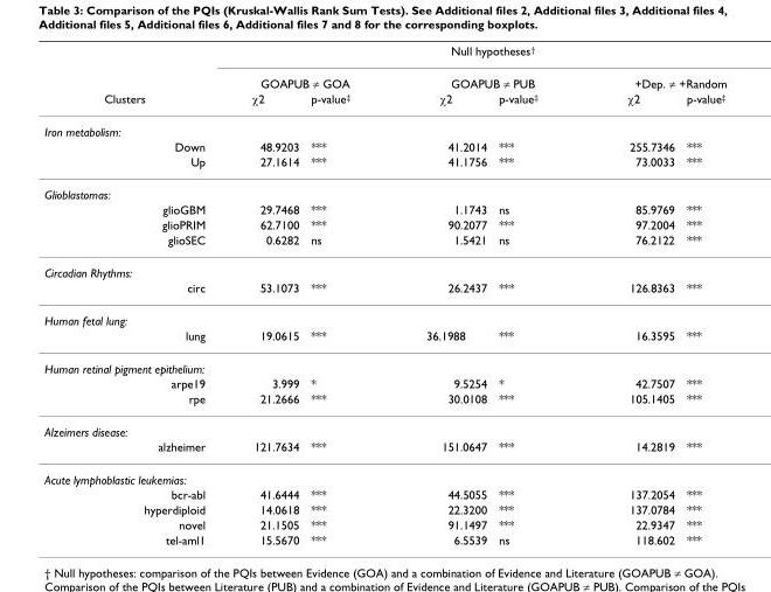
<table><thead><tr><td rowspan="3">Clusters</td><td colspan="6">Null hypotheses†</td></tr><tr><td colspan="2">GOAPUB ≠ GOA</td><td colspan="2">GOAPUB ≠ PUB</td><td colspan="2">+Dep. ≠ +Random</td></tr><tr><td>χ2</td><td>p-value‡</td><td>χ2</td><td>p-value‡</td><td>χ2</td><td>p-value‡</td></tr></thead><tbody><tr><td colspan="7">Iron metabolism:</td></tr><tr><td>Down</td><td>48.9203</td><td>***</td><td>41.2014</td><td>***</td><td>255.7346</td><td>***</td></tr><tr><td>Up</td><td>27.1614</td><td>***</td><td>41.1756</td><td>***</td><td>73.0033</td><td>***</td></tr><tr><td colspan="7">Glioblastomas:</td></tr><tr><td>glioGBM</td><td>29.7468</td><td>***</td><td>1.1743</td><td>ns</td><td>85.9769</td><td>***</td></tr><tr><td>glioPRIM</td><td>62.7100</td><td>***</td><td>90.2077</td><td>***</td><td>97.2004</td><td>***</td></tr><tr><td>glioSEC</td><td>0.6282</td><td>ns</td><td>1.5421</td><td>ns</td><td>76.2122</td><td>***</td></tr><tr><td colspan="7">Circadian Rhythms:</td></tr><tr><td>circ</td><td>53.1073</td><td>***</td><td>26.2437</td><td>***</td><td>126.8363</td><td>***</td></tr><tr><td colspan="7">Human fetal lung:</td></tr><tr><td>lung</td><td>19.0615</td><td>***</td><td>36.1988</td><td>***</td><td>16.3595</td><td>***</td></tr><tr><td colspan="7">Human retinal pigment epithelium:</td></tr><tr><td>arpe19</td><td>3.999</td><td>*</td><td>9.5254</td><td>*</td><td>42.7507</td><td>***</td></tr><tr><td>rpe</td><td>21.2666</td><td>***</td><td>30.0108</td><td>***</td><td>105.1405</td><td>***</td></tr><tr><td colspan="7">Alzeimers disease:</td></tr><tr><td>alzheimer</td><td>121.7634</td><td>***</td><td>151.0647</td><td>***</td><td>14.2819</td><td>***</td></tr><tr><td colspan="7">Acute lymphoblastic leukemias:</td></tr><tr><td>bcr-abl</td><td>41.6444</td><td>***</td><td>44.5055</td><td>***</td><td>137.2054</td><td>***</td></tr><tr><td>hyperdiploid</td><td>14.0618</td><td>***</td><td>22.3200</td><td>***</td><td>137.0784</td><td>***</td></tr><tr><td>novel</td><td>21.1505</td><td>***</td><td>91.1497</td><td>***</td><td>22.9347</td><td>***</td></tr><tr><td>tel-aml1</td><td>15.5670</td><td>***</td><td>6.5539</td><td>ns</td><td>118.602</td><td>***</td></tr></tbody></table>